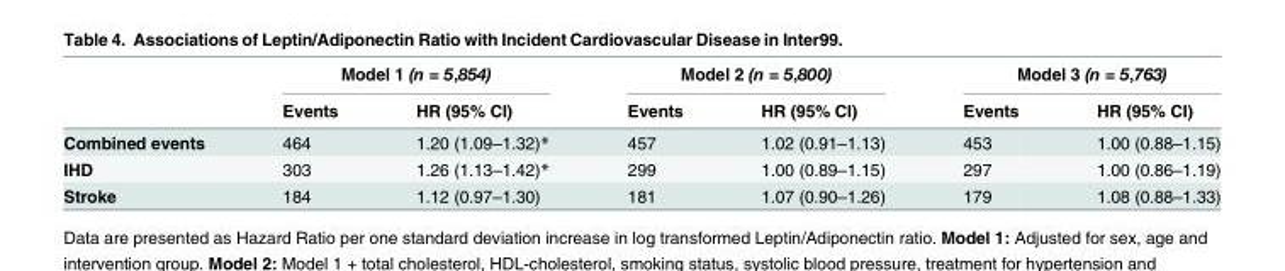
<table><thead><tr><td rowspan="2"></td><td colspan="2">Model 1 (n = 5,854)</td><td colspan="2">Model 2 (n = 5,800)</td><td colspan="2">Model 3 (n = 5,763)</td></tr><tr><td>Events</td><td>HR (95% CI)</td><td>Events</td><td>HR (95% CI)</td><td>Events</td><td>HR (95% CI)</td></tr></thead><tbody><tr><td>Combined events</td><td>464</td><td>1.20 (1.09–1.32)*</td><td>457</td><td>1.02 (0.91–1.13)</td><td>453</td><td>1.00 (0.88–1.15)</td></tr><tr><td>IHD</td><td>303</td><td>1.26 (1.13–1.42)*</td><td>299</td><td>1.00 (0.89–1.15)</td><td>297</td><td>1.00 (0.86–1.19)</td></tr><tr><td>Stroke</td><td>184</td><td>1.12 (0.97–1.30)</td><td>181</td><td>1.07 (0.90–1.26)</td><td>179</td><td>1.08 (0.88–1.33)</td></tr></tbody></table>